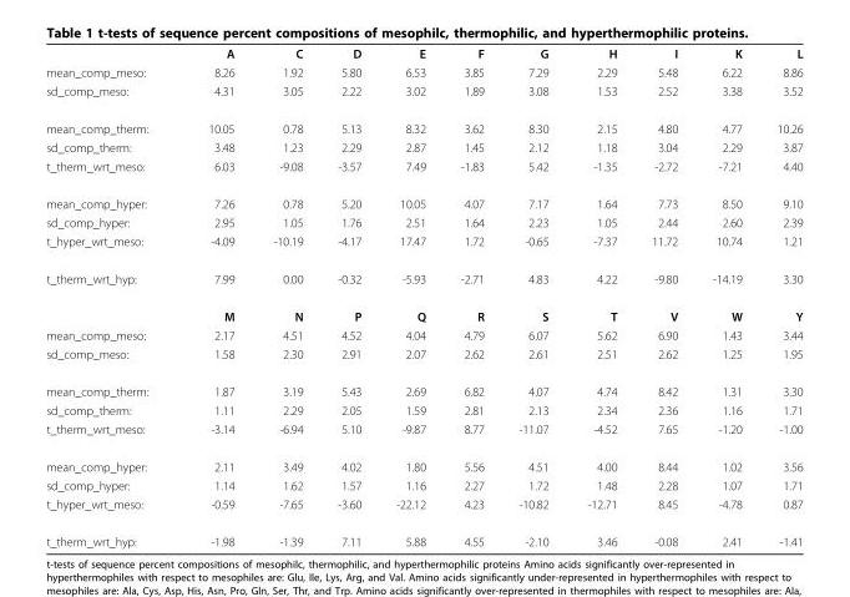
<table><thead><tr><td></td><td>A</td><td>C</td><td>D</td><td>E</td><td>F</td><td>G</td><td>H</td><td>I</td><td>K</td><td>L</td></tr></thead><tbody><tr><td>mean_comp_meso:</td><td>8.26</td><td>1.92</td><td>5.80</td><td>6.53</td><td>3.85</td><td>7.29</td><td>2.29</td><td>5.48</td><td>6.22</td><td>8.86</td></tr><tr><td>sd_comp_meso:</td><td>4.31</td><td>3.05</td><td>2.22</td><td>3.02</td><td>1.89</td><td>3.08</td><td>1.53</td><td>2.52</td><td>3.38</td><td>3.52</td></tr><tr><td>mean_comp_therm:</td><td>10.05</td><td>0.78</td><td>5.13</td><td>8.32</td><td>3.62</td><td>8.30</td><td>2.15</td><td>4.80</td><td>4.77</td><td>10.26</td></tr><tr><td>sd_comp_therm:</td><td>3.48</td><td>1.23</td><td>2.29</td><td>2.87</td><td>1.45</td><td>2.12</td><td>1.18</td><td>3.04</td><td>2.29</td><td>3.87</td></tr><tr><td>t_therm_wrt_meso:</td><td>6.03</td><td>-9.08</td><td>-3.57</td><td>7.49</td><td>-1.83</td><td>5.42</td><td>-1.35</td><td>-2.72</td><td>-7.21</td><td>4.40</td></tr><tr><td>mean_comp_hyper:</td><td>7.26</td><td>0.78</td><td>5.20</td><td>10.05</td><td>4.07</td><td>7.17</td><td>1.64</td><td>7.73</td><td>8.50</td><td>9.10</td></tr><tr><td>sd_comp_hyper:</td><td>2.95</td><td>1.05</td><td>1.76</td><td>2.51</td><td>1.64</td><td>2.23</td><td>1.05</td><td>2.44</td><td>2.60</td><td>2.39</td></tr><tr><td>t_hyper_wrt_meso:</td><td>-4.09</td><td>-10.19</td><td>-4.17</td><td>17.47</td><td>1.72</td><td>-0.65</td><td>-7.37</td><td>11.72</td><td>10.74</td><td>1.21</td></tr><tr><td rowspan="2">t_therm_wrt_hyp:</td><td>7.99</td><td>0.00</td><td>-0.32</td><td>-5.93</td><td>-2.71</td><td>4.83</td><td>4.22</td><td>-9.80</td><td>-14.19</td><td>3.30</td></tr><tr><td>M</td><td>N</td><td>P</td><td>Q</td><td>R</td><td>S</td><td>T</td><td>V</td><td>W</td><td>Y</td></tr><tr><td>mean_comp_meso:</td><td>2.17</td><td>4.51</td><td>4.52</td><td>4.04</td><td>4.79</td><td>6.07</td><td>5.62</td><td>6.90</td><td>1.43</td><td>3.44</td></tr><tr><td>sd_comp_meso:</td><td>1.58</td><td>2.30</td><td>2.91</td><td>2.07</td><td>2.62</td><td>2.61</td><td>2.51</td><td>2.62</td><td>1.25</td><td>1.95</td></tr><tr><td>mean_comp_therm:</td><td>1.87</td><td>3.19</td><td>5.43</td><td>2.69</td><td>6.82</td><td>4.07</td><td>4.74</td><td>8.42</td><td>1.31</td><td>3.30</td></tr><tr><td>sd_comp_therm:</td><td>1.11</td><td>2.29</td><td>2.05</td><td>1.59</td><td>2.81</td><td>2.13</td><td>2.34</td><td>2.36</td><td>1.16</td><td>1.71</td></tr><tr><td>t_therm_wrt_meso:</td><td>-3.14</td><td>-6.94</td><td>5.10</td><td>-9.87</td><td>8.77</td><td>-11.07</td><td>-4.52</td><td>7.65</td><td>-1.20</td><td>-1.00</td></tr><tr><td>mean_comp_hyper:</td><td>2.11</td><td>3.49</td><td>4.02</td><td>1.80</td><td>5.56</td><td>4.51</td><td>4.00</td><td>8.44</td><td>1.02</td><td>3.56</td></tr><tr><td>sd_comp_hyper:</td><td>1.14</td><td>1.62</td><td>1.57</td><td>1.16</td><td>2.27</td><td>1.72</td><td>1.48</td><td>2.28</td><td>1.07</td><td>1.71</td></tr><tr><td>t_hyper_wrt_meso:</td><td>-0.59</td><td>-7.65</td><td>-3.60</td><td>-22.12</td><td>4.23</td><td>-10.82</td><td>-12.71</td><td>8.45</td><td>-4.78</td><td>0.87</td></tr><tr><td>t_therm_wrt_hyp:</td><td>-1.98</td><td>-1.39</td><td>7.11</td><td>5.88</td><td>4.55</td><td>-2.10</td><td>3.46</td><td>-0.08</td><td>2.41</td><td>-1.41</td></tr></tbody></table>